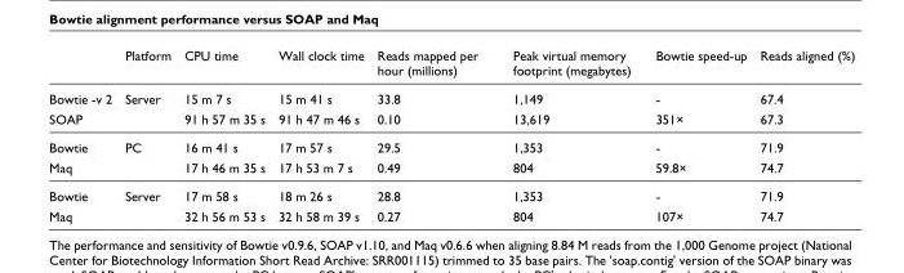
<table><thead><tr><td></td><td>Platform</td><td>CPU time</td><td>Wall clock time</td><td>Reads mapped per hour (millions)</td><td>Peak virtual memory footprint (megabytes)</td><td>Bowtie speed-up</td><td>Reads aligned (%)</td></tr></thead><tbody><tr><td>Bowtie -v 2</td><td>Server</td><td>15 m 7 s</td><td>15 m 41 s</td><td>33.8</td><td>1,149</td><td>-</td><td>67.4</td></tr><tr><td>SOAP</td><td></td><td>91 h 57 m 35 s</td><td>91 h 47 m 46 s</td><td>0.10</td><td>13,619</td><td>351×</td><td>67.3</td></tr><tr><td>Bowtie</td><td>PC</td><td>16 m 41 s</td><td>17 m 57 s</td><td>29.5</td><td>1,353</td><td>-</td><td>71.9</td></tr><tr><td>Maq</td><td></td><td>17 h 46 m 35 s</td><td>17 h 53 m 7 s</td><td>0.49</td><td>804</td><td>59.8×</td><td>74.7</td></tr><tr><td>Bowtie</td><td>Server</td><td>17 m 58 s</td><td>18 m 26 s</td><td>28.8</td><td>1,353</td><td>-</td><td>71.9</td></tr><tr><td>Maq</td><td></td><td>32 h 56 m 53 s</td><td>32 h 58 m 39 s</td><td>0.27</td><td>804</td><td>107×</td><td>74.7</td></tr></tbody></table>